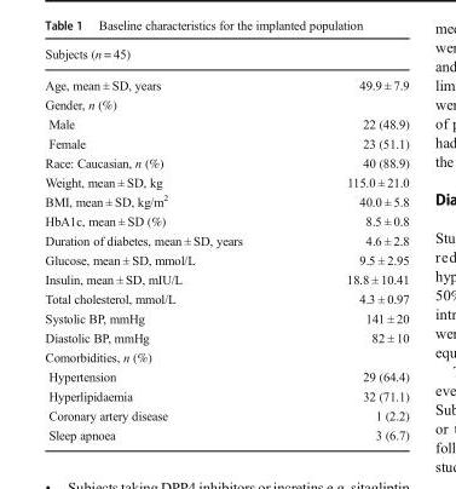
<table><thead><tr><td colspan="2">Subjects (n = 45)</td></tr><tr><td>Age, mean ± SD, years</td><td>49.9 ± 7.9</td></tr></thead><tbody><tr><td colspan="2">Gender, n (%)</td></tr><tr><td>Male</td><td>22 (48.9)</td></tr><tr><td>Female</td><td>23 (51.1)</td></tr><tr><td>Race: Caucasian, n (%)</td><td>40 (88.9)</td></tr><tr><td>Weight, mean ± SD, kg</td><td>115.0 ± 21.0</td></tr><tr><td>BMI, mean ± SD, kg/m<sup>2</sup></td><td>40.0 ± 5.8</td></tr><tr><td>HbA1c, mean ± SD (%)</td><td>8.5 ± 0.8</td></tr><tr><td>Duration of diabetes, mean ± SD, years</td><td>4.6 ± 2.8</td></tr><tr><td>Glucose, mean ± SD, mmol/L</td><td>9.5 ± 2.95</td></tr><tr><td>Insulin, mean ± SD, mIU/L</td><td>18.8 ± 10.41</td></tr><tr><td>Total cholesterol, mmol/L</td><td>4.3 ± 0.97</td></tr><tr><td>Systolic BP, mmHg</td><td>141 ± 20</td></tr><tr><td>Diastolic BP, mmHg</td><td>82 ± 10</td></tr><tr><td colspan="2">Comorbidities, n (%)</td></tr><tr><td>Hypertension</td><td>29 (64.4)</td></tr><tr><td>Hyperlipidaemia</td><td>32 (71.1)</td></tr><tr><td>Coronary artery disease</td><td>1 (2.2)</td></tr><tr><td>Sleep apnoea</td><td>3 (6.7)</td></tr></tbody></table>